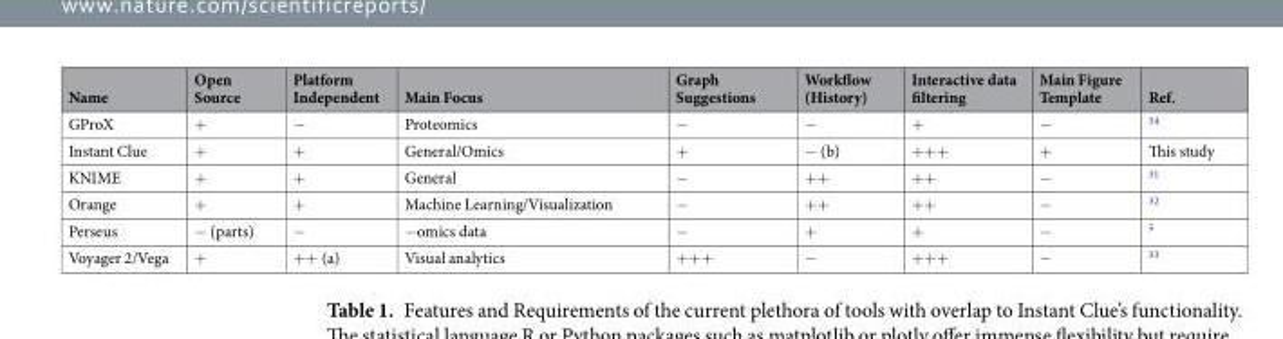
<table><thead><tr><td>Name</td><td>Open Source</td><td>Platform Independent</td><td>Main Focus</td><td>Graph Suggestions</td><td>Workflow (History)</td><td>Interactive data filtering</td><td>Main Figure Template</td><td>Ref.</td></tr></thead><tbody><tr><td>GProX</td><td>+</td><td>−</td><td>Proteomics</td><td>−</td><td>−</td><td>+</td><td>−</td><td><sup>34</sup></td></tr><tr><td>Instant Clue</td><td>+</td><td>+</td><td>General/Omics</td><td>+</td><td>− (b)</td><td>+++</td><td>+</td><td>This study</td></tr><tr><td>KNIME</td><td>+</td><td>+</td><td>General</td><td>−</td><td>++</td><td>++</td><td>−</td><td><sup>31</sup></td></tr><tr><td>Orange</td><td>+</td><td>+</td><td>Machine Learning/Visualization</td><td>−</td><td>++</td><td>++</td><td>−</td><td><sup>32</sup></td></tr><tr><td>Perseus</td><td>− (parts)</td><td>−</td><td>−omics data</td><td>−</td><td>+</td><td>+</td><td>−</td><td><sup>5</sup></td></tr><tr><td>Voyager 2/Vega</td><td>+</td><td>++ (a)</td><td>Visual analytics</td><td>+++</td><td>−</td><td>+++</td><td>−</td><td><sup>33</sup></td></tr></tbody></table>